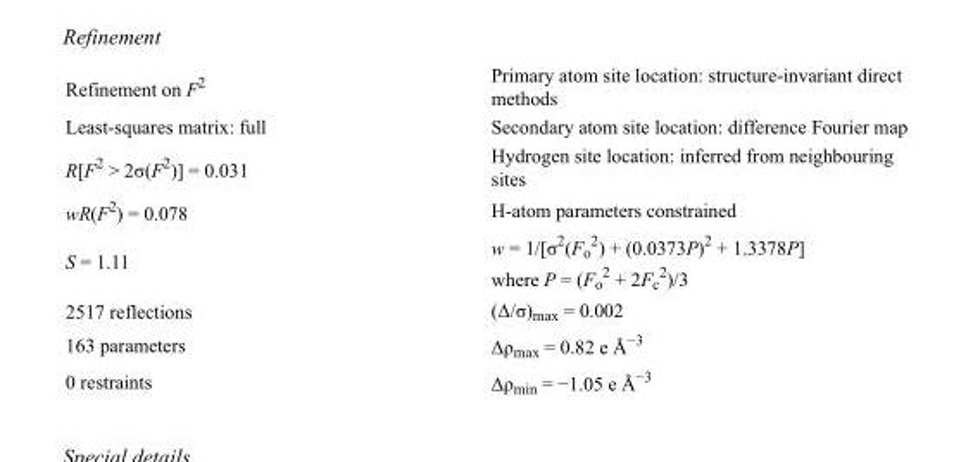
<table><tbody><tr><td>Refinement on F<sup>2</sup></td><td>Primary atom site location: structure-invariant direct methods</td></tr><tr><td>Least-squares matrix: full</td><td>Secondary atom site location: difference Fourier map</td></tr><tr><td>R[F<sup>2</sup> &gt; 2σ(F<sup>2</sup>)] = 0.031</td><td>Hydrogen site location: inferred from neighbouring sites</td></tr><tr><td>wR(F<sup>2</sup>) = 0.078</td><td>H-atom parameters constrained</td></tr><tr><td>S = 1.11</td><td>w = 1/[σ<sup>2</sup>(F<sub>o</sub> <sup>2</sup>) + (0.0373P)<sup>2</sup> + 1.3378P] where P = (F<sub>o</sub> <sup>2</sup> + 2F<sub>c</sub> <sup>2</sup>)/3</td></tr><tr><td>2517 reflections</td><td>(Δ/σ)<sub>max</sub> = 0.002</td></tr><tr><td>163 parameters</td><td>Δρ<sub>max</sub> = 0.82 e Å<sup>−3</sup></td></tr><tr><td>0 restraints</td><td>Δρ<sub>min</sub> = −1.05 e Å<sup>−3</sup></td></tr></tbody></table>